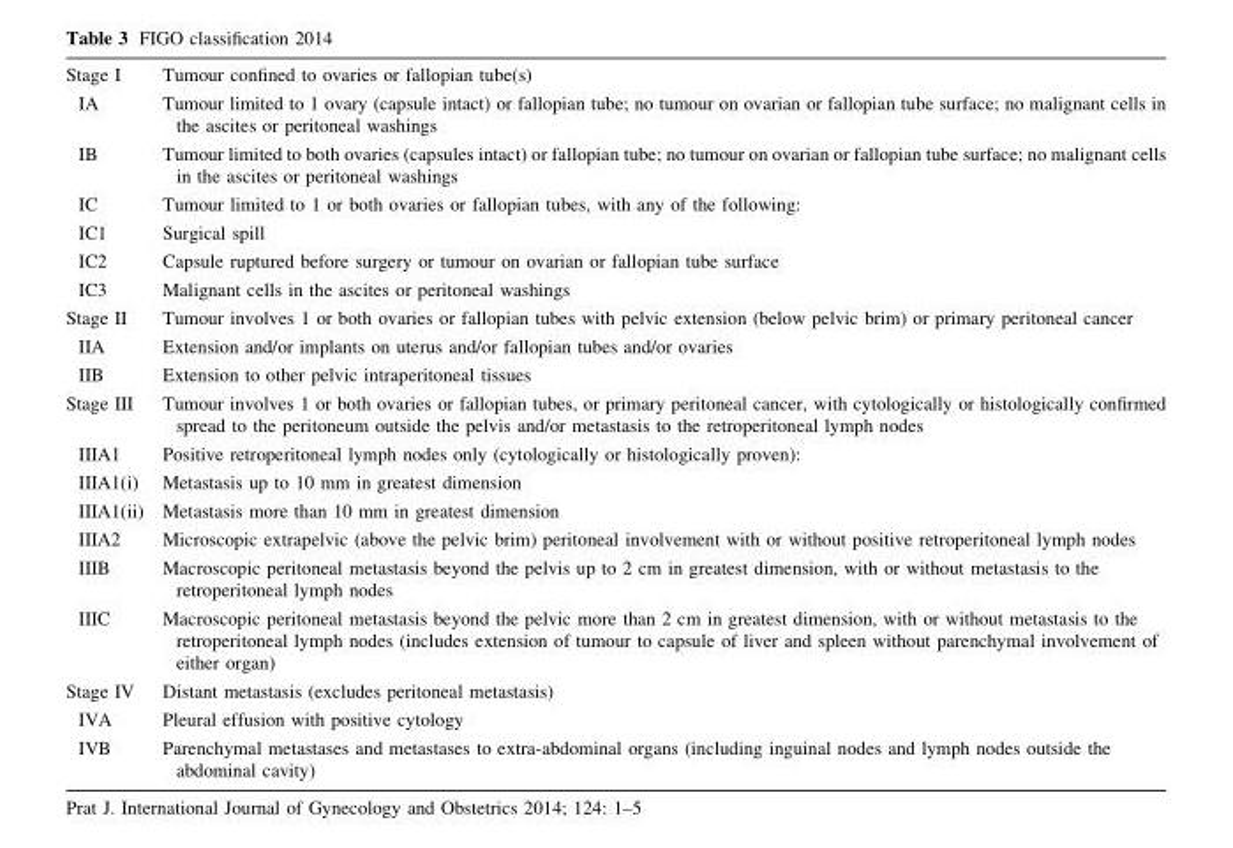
<table><tbody><tr><td>Stage I</td><td>Tumour confined to ovaries or fallopian tube(s)</td></tr><tr><td>IA</td><td>Tumour limited to 1 ovary (capsule intact) or fallopian tube; no tumour on ovarian or fallopian tube surface; no malignant cells in the ascites or peritoneal washings</td></tr><tr><td>IB</td><td>Tumour limited to both ovaries (capsules intact) or fallopian tube; no tumour on ovarian or fallopian tube surface; no malignant cells in the ascites or peritoneal washings</td></tr><tr><td>IC</td><td>Tumour limited to 1 or both ovaries or fallopian tubes, with any of the following:</td></tr><tr><td>IC1</td><td>Surgical spill</td></tr><tr><td>IC2</td><td>Capsule ruptured before surgery or tumour on ovarian or fallopian tube surface</td></tr><tr><td>IC3</td><td>Malignant cells in the ascites or peritoneal washings</td></tr><tr><td>Stage II</td><td>Tumour involves 1 or both ovaries or fallopian tubes with pelvic extension (below pelvic brim) or primary peritoneal cancer</td></tr><tr><td>IIA</td><td>Extension and/or implants on uterus and/or fallopian tubes and/or ovaries</td></tr><tr><td>IIB</td><td>Extension to other pelvic intraperitoneal tissues</td></tr><tr><td>Stage III</td><td>Tumour involves 1 or both ovaries or fallopian tubes, or primary peritoneal cancer, with cytologically or histologically confirmed spread to the peritoneum outside the pelvis and/or metastasis to the retroperitoneal lymph nodes</td></tr><tr><td>IIIA1</td><td>Positive retroperitoneal lymph nodes only (cytologically or histologically proven):</td></tr><tr><td>IIIA1(i)</td><td>Metastasis up to 10 mm in greatest dimension</td></tr><tr><td>IIIA1(ii)</td><td>Metastasis more than 10 mm in greatest dimension</td></tr><tr><td>IIIA2</td><td>Microscopic extrapelvic (above the pelvic brim) peritoneal involvement with or without positive retroperitoneal lymph nodes</td></tr><tr><td>IIIB</td><td>Macroscopic peritoneal metastasis beyond the pelvis up to 2 cm in greatest dimension, with or without metastasis to the retroperitoneal lymph nodes</td></tr><tr><td>IIIC</td><td>Macroscopic peritoneal metastasis beyond the pelvic more than 2 cm in greatest dimension, with or without metastasis to the retroperitoneal lymph nodes (includes extension of tumour to capsule of liver and spleen without parenchymal involvement of either organ)</td></tr><tr><td>Stage IV</td><td>Distant metastasis (excludes peritoneal metastasis)</td></tr><tr><td>IVA</td><td>Pleural effusion with positive cytology</td></tr><tr><td>IVB</td><td>Parenchymal metastases and metastases to extra-abdominal organs (including inguinal nodes and lymph nodes outside the abdominal cavity)</td></tr></tbody></table>